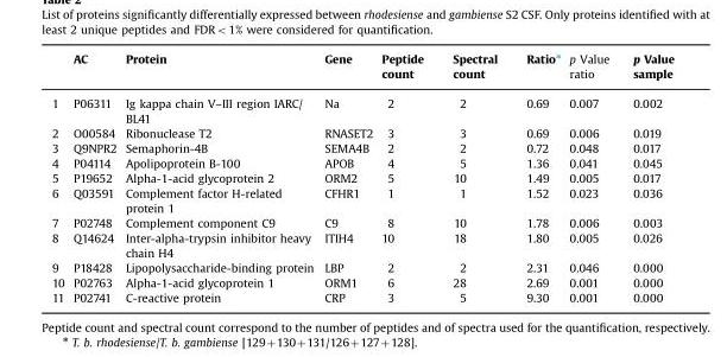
<table><thead><tr><td></td><td>AC</td><td>Protein</td><td>Gene</td><td>Peptide count</td><td>Spectral count</td><td>Ratio⁎</td><td>p Value ratio</td><td>p Value sample</td></tr></thead><tbody><tr><td>1</td><td>P06311</td><td>Ig kappa chain V–III region IARC/ BL41</td><td>Na</td><td>2</td><td>2</td><td>0.69</td><td>0.007</td><td>0.002</td></tr><tr><td>2</td><td>O00584</td><td>Ribonuclease T2</td><td>RNASET2</td><td>3</td><td>3</td><td>0.69</td><td>0.006</td><td>0.019</td></tr><tr><td>3</td><td>Q9NPR2</td><td>Semaphorin-4B</td><td>SEMA4B</td><td>2</td><td>2</td><td>0.72</td><td>0.048</td><td>0.017</td></tr><tr><td>4</td><td>P04114</td><td>Apolipoprotein B-100</td><td>APOB</td><td>4</td><td>5</td><td>1.36</td><td>0.041</td><td>0.045</td></tr><tr><td>5</td><td>P19652</td><td>Alpha-1-acid glycoprotein 2</td><td>ORM2</td><td>5</td><td>10</td><td>1.49</td><td>0.005</td><td>0.017</td></tr><tr><td>6</td><td>Q03591</td><td>Complement factor H-related protein 1</td><td>CFHR1</td><td>1</td><td>1</td><td>1.52</td><td>0.023</td><td>0.036</td></tr><tr><td>7</td><td>P02748</td><td>Complement component C9</td><td>C9</td><td>8</td><td>10</td><td>1.78</td><td>0.006</td><td>0.003</td></tr><tr><td>8</td><td>Q14624</td><td>Inter-alpha-trypsin inhibitor heavy chain H4</td><td>ITIH4</td><td>10</td><td>18</td><td>1.80</td><td>0.005</td><td>0.026</td></tr><tr><td>9</td><td>P18428</td><td>Lipopolysaccharide-binding protein</td><td>LBP</td><td>2</td><td>2</td><td>2.31</td><td>0.046</td><td>0.000</td></tr><tr><td>10</td><td>P02763</td><td>Alpha-1-acid glycoprotein 1</td><td>ORM1</td><td>6</td><td>28</td><td>2.69</td><td>0.001</td><td>0.000</td></tr><tr><td>11</td><td>P02741</td><td>C-reactive protein</td><td>CRP</td><td>3</td><td>5</td><td>9.30</td><td>0.001</td><td>0.000</td></tr></tbody></table>